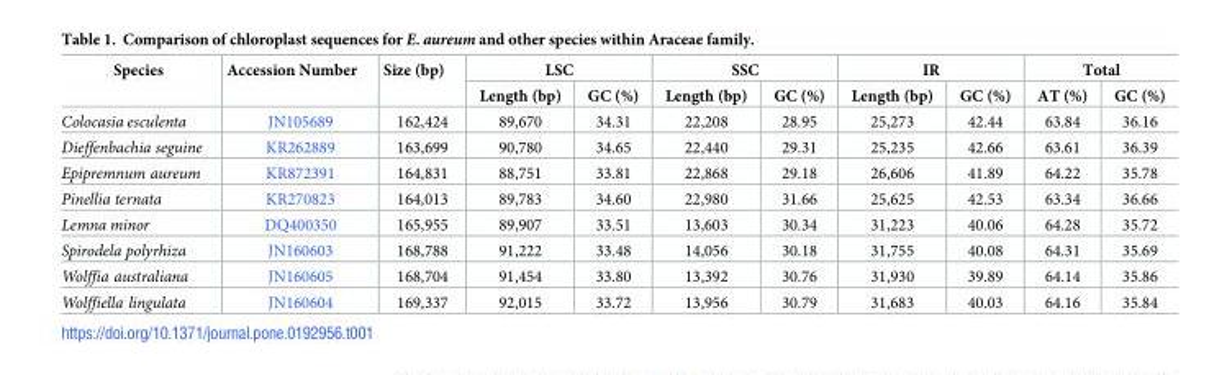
<table><thead><tr><td rowspan="2">Species</td><td rowspan="2">Accession Number</td><td rowspan="2">Size (bp)</td><td colspan="2">LSC</td><td colspan="2">SSC</td><td colspan="2">IR</td><td colspan="2">Total</td></tr><tr><td>Length (bp)</td><td>GC (%)</td><td>Length (bp)</td><td>GC (%)</td><td>Length (bp)</td><td>GC (%)</td><td>AT (%)</td><td>GC (%)</td></tr></thead><tbody><tr><td>Colocasia esculenta</td><td>JN105689</td><td>162,424</td><td>89,670</td><td>34.31</td><td>22,208</td><td>28.95</td><td>25,273</td><td>42.44</td><td>63.84</td><td>36.16</td></tr><tr><td>Dieffenbachia seguine</td><td>KR262889</td><td>163,699</td><td>90,780</td><td>34.65</td><td>22,440</td><td>29.31</td><td>25,235</td><td>42.66</td><td>63.61</td><td>36.39</td></tr><tr><td>Epipremnum aureum</td><td>KR872391</td><td>164,831</td><td>88,751</td><td>33.81</td><td>22,868</td><td>29.18</td><td>26,606</td><td>41.89</td><td>64.22</td><td>35.78</td></tr><tr><td>Pinellia ternata</td><td>KR270823</td><td>164,013</td><td>89,783</td><td>34.60</td><td>22,980</td><td>31.66</td><td>25,625</td><td>42.53</td><td>63.34</td><td>36.66</td></tr><tr><td>Lemna minor</td><td>DQ400350</td><td>165,955</td><td>89,907</td><td>33.51</td><td>13,603</td><td>30.34</td><td>31,223</td><td>40.06</td><td>64.28</td><td>35.72</td></tr><tr><td>Spirodela polyrhiza</td><td>JN160603</td><td>168,788</td><td>91,222</td><td>33.48</td><td>14,056</td><td>30.18</td><td>31,755</td><td>40.08</td><td>64.31</td><td>35.69</td></tr><tr><td>Wolffia australiana</td><td>JN160605</td><td>168,704</td><td>91,454</td><td>33.80</td><td>13,392</td><td>30.76</td><td>31,930</td><td>39.89</td><td>64.14</td><td>35.86</td></tr><tr><td>Wolffiella lingulata</td><td>JN160604</td><td>169,337</td><td>92,015</td><td>33.72</td><td>13,956</td><td>30.79</td><td>31,683</td><td>40.03</td><td>64.16</td><td>35.84</td></tr></tbody></table>